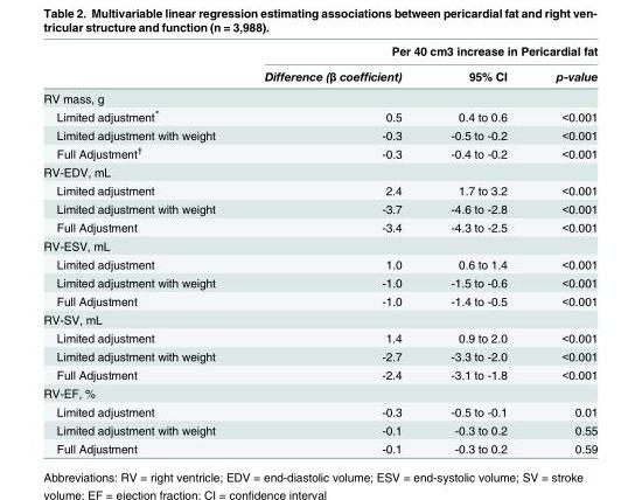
<table><thead><tr><td rowspan="2"></td><td colspan="3">Per 40 cm3 increase in Pericardial fat</td></tr><tr><td>Difference (β coefficient)</td><td>95% CI</td><td>p-value</td></tr></thead><tbody><tr><td colspan="4">RV mass, g</td></tr><tr><td>Limited adjustment*</td><td>0.5</td><td>0.4 to 0.6</td><td>&lt;0.001</td></tr><tr><td>Limited adjustment with weight</td><td>-0.3</td><td>-0.5 to -0.2</td><td>&lt;0.001</td></tr><tr><td>Full Adjustment<sup>†</sup></td><td>-0.3</td><td>-0.4 to -0.2</td><td>&lt;0.001</td></tr><tr><td colspan="4">RV-EDV, mL</td></tr><tr><td>Limited adjustment</td><td>2.4</td><td>1.7 to 3.2</td><td>&lt;0.001</td></tr><tr><td>Limited adjustment with weight</td><td>-3.7</td><td>-4.6 to -2.8</td><td>&lt;0.001</td></tr><tr><td>Full Adjustment</td><td>-3.4</td><td>-4.3 to -2.5</td><td>&lt;0.001</td></tr><tr><td colspan="4">RV-ESV, mL</td></tr><tr><td>Limited adjustment</td><td>1.0</td><td>0.6 to 1.4</td><td>&lt;0.001</td></tr><tr><td>Limited adjustment with weight</td><td>-1.0</td><td>-1.5 to -0.6</td><td>&lt;0.001</td></tr><tr><td>Full Adjustment</td><td>-1.0</td><td>-1.4 to -0.5</td><td>&lt;0.001</td></tr><tr><td colspan="4">RV-SV, mL</td></tr><tr><td>Limited adjustment</td><td>1.4</td><td>0.9 to 2.0</td><td>&lt;0.001</td></tr><tr><td>Limited adjustment with weight</td><td>-2.7</td><td>-3.3 to -2.0</td><td>&lt;0.001</td></tr><tr><td>Full Adjustment</td><td>-2.4</td><td>-3.1 to -1.8</td><td>&lt;0.001</td></tr><tr><td colspan="4">RV-EF, %</td></tr><tr><td>Limited adjustment</td><td>-0.3</td><td>-0.5 to -0.1</td><td>0.01</td></tr><tr><td>Limited adjustment with weight</td><td>-0.1</td><td>-0.3 to 0.2</td><td>0.55</td></tr><tr><td>Full Adjustment</td><td>-0.1</td><td>-0.3 to 0.2</td><td>0.59</td></tr></tbody></table>